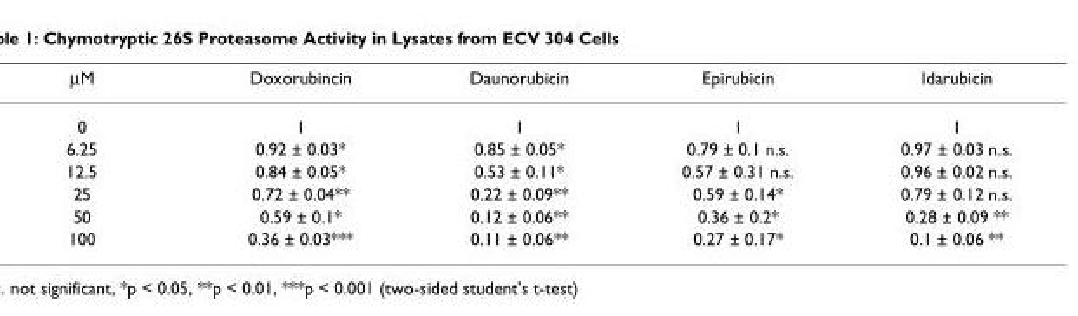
<table><thead><tr><td>µM</td><td>Doxorubincin</td><td>Daunorubicin</td><td>Epirubicin</td><td>Idarubicin</td></tr></thead><tbody><tr><td>0</td><td>1</td><td>1</td><td>1</td><td>1</td></tr><tr><td>6.25</td><td>0.92 ± 0.03*</td><td>0.85 ± 0.05*</td><td>0.79 ± 0.1 n.s.</td><td>0.97 ± 0.03 n.s.</td></tr><tr><td>12.5</td><td>0.84 ± 0.05*</td><td>0.53 ± 0.11*</td><td>0.57 ± 0.31 n.s.</td><td>0.96 ± 0.02 n.s.</td></tr><tr><td>25</td><td>0.72 ± 0.04**</td><td>0.22 ± 0.09**</td><td>0.59 ± 0.14*</td><td>0.79 ± 0.12 n.s.</td></tr><tr><td>50</td><td>0.59 ± 0.1*</td><td>0.12 ± 0.06**</td><td>0.36 ± 0.2*</td><td>0.28 ± 0.09 **</td></tr><tr><td>100</td><td>0.36 ± 0.03***</td><td>0.11 ± 0.06**</td><td>0.27 ± 0.17*</td><td>0.1 ± 0.06 **</td></tr></tbody></table>